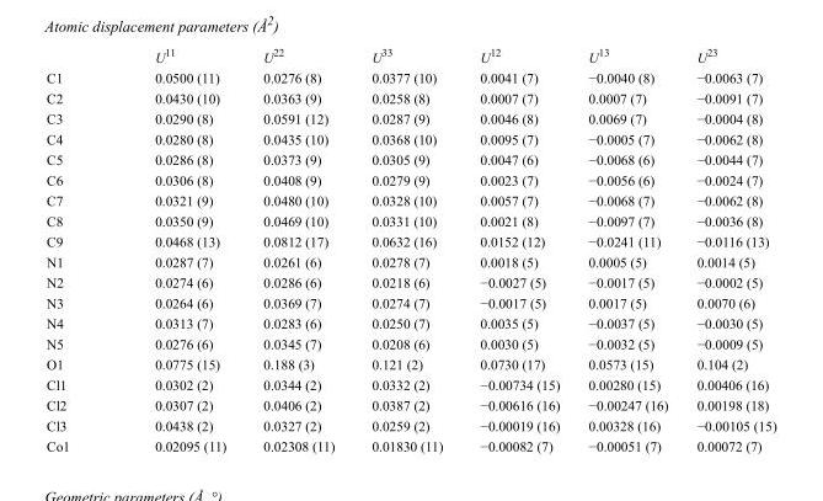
<table><thead><tr><td></td><td>U<sup>11</sup></td><td>U<sup>22</sup></td><td>U<sup>33</sup></td><td>U<sup>12</sup></td><td>U<sup>13</sup></td><td>U<sup>23</sup></td></tr></thead><tbody><tr><td>C1</td><td>0.0500 (11)</td><td>0.0276 (8)</td><td>0.0377 (10)</td><td>0.0041 (7)</td><td>−0.0040 (8)</td><td>−0.0063 (7)</td></tr><tr><td>C2</td><td>0.0430 (10)</td><td>0.0363 (9)</td><td>0.0258 (8)</td><td>0.0007 (7)</td><td>0.0007 (7)</td><td>−0.0091 (7)</td></tr><tr><td>C3</td><td>0.0290 (8)</td><td>0.0591 (12)</td><td>0.0287 (9)</td><td>0.0046 (8)</td><td>0.0069 (7)</td><td>−0.0004 (8)</td></tr><tr><td>C4</td><td>0.0280 (8)</td><td>0.0435 (10)</td><td>0.0368 (10)</td><td>0.0095 (7)</td><td>−0.0005 (7)</td><td>−0.0062 (8)</td></tr><tr><td>C5</td><td>0.0286 (8)</td><td>0.0373 (9)</td><td>0.0305 (9)</td><td>0.0047 (6)</td><td>−0.0068 (6)</td><td>−0.0044 (7)</td></tr><tr><td>C6</td><td>0.0306 (8)</td><td>0.0408 (9)</td><td>0.0279 (9)</td><td>0.0023 (7)</td><td>−0.0056 (6)</td><td>−0.0024 (7)</td></tr><tr><td>C7</td><td>0.0321 (9)</td><td>0.0480 (10)</td><td>0.0328 (10)</td><td>0.0057 (7)</td><td>−0.0068 (7)</td><td>−0.0062 (8)</td></tr><tr><td>C8</td><td>0.0350 (9)</td><td>0.0469 (10)</td><td>0.0331 (10)</td><td>0.0021 (8)</td><td>−0.0097 (7)</td><td>−0.0036 (8)</td></tr><tr><td>C9</td><td>0.0468 (13)</td><td>0.0812 (17)</td><td>0.0632 (16)</td><td>0.0152 (12)</td><td>−0.0241 (11)</td><td>−0.0116 (13)</td></tr><tr><td>N1</td><td>0.0287 (7)</td><td>0.0261 (6)</td><td>0.0278 (7)</td><td>0.0018 (5)</td><td>0.0005 (5)</td><td>0.0014 (5)</td></tr><tr><td>N2</td><td>0.0274 (6)</td><td>0.0286 (6)</td><td>0.0218 (6)</td><td>−0.0027 (5)</td><td>−0.0017 (5)</td><td>−0.0002 (5)</td></tr><tr><td>N3</td><td>0.0264 (6)</td><td>0.0369 (7)</td><td>0.0274 (7)</td><td>−0.0017 (5)</td><td>0.0017 (5)</td><td>0.0070 (6)</td></tr><tr><td>N4</td><td>0.0313 (7)</td><td>0.0283 (6)</td><td>0.0250 (7)</td><td>0.0035 (5)</td><td>−0.0037 (5)</td><td>−0.0030 (5)</td></tr><tr><td>N5</td><td>0.0276 (6)</td><td>0.0345 (7)</td><td>0.0208 (6)</td><td>0.0030 (5)</td><td>−0.0032 (5)</td><td>−0.0009 (5)</td></tr><tr><td>O1</td><td>0.0775 (15)</td><td>0.188 (3)</td><td>0.121 (2)</td><td>0.0730 (17)</td><td>0.0573 (15)</td><td>0.104 (2)</td></tr><tr><td>Cl1</td><td>0.0302 (2)</td><td>0.0344 (2)</td><td>0.0332 (2)</td><td>−0.00734 (15)</td><td>0.00280 (15)</td><td>0.00406 (16)</td></tr><tr><td>Cl2</td><td>0.0307 (2)</td><td>0.0406 (2)</td><td>0.0387 (2)</td><td>−0.00616 (16)</td><td>−0.00247 (16)</td><td>0.00198 (18)</td></tr><tr><td>Cl3</td><td>0.0438 (2)</td><td>0.0327 (2)</td><td>0.0259 (2)</td><td>−0.00019 (16)</td><td>0.00328 (16)</td><td>−0.00105 (15)</td></tr><tr><td>Co1</td><td>0.02095 (11)</td><td>0.02308 (11)</td><td>0.01830 (11)</td><td>−0.00082 (7)</td><td>−0.00051 (7)</td><td>0.00072 (7)</td></tr></tbody></table>